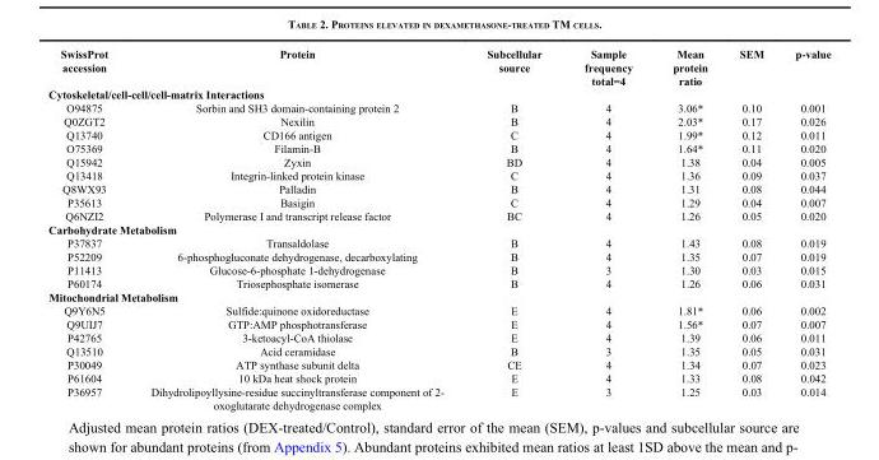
<table><thead><tr><td>SwissProt accession</td><td>Protein</td><td>Subcellular source</td><td>Sample frequency total=4</td><td>Mean protein ratio</td><td>SEM</td><td>p-value</td></tr></thead><tbody><tr><td colspan="7">Cytoskeletal/cell-cell/cell-matrix Interactions</td></tr><tr><td>O94875</td><td>Sorbin and SH3 domain-containing protein 2</td><td>B</td><td>4</td><td>3.06*</td><td>0.10</td><td>0.001</td></tr><tr><td>Q0ZGT2</td><td>Nexilin</td><td>B</td><td>4</td><td>2.03*</td><td>0.17</td><td>0.026</td></tr><tr><td>Q13740</td><td>CD166 antigen</td><td>C</td><td>4</td><td>1.99*</td><td>0.12</td><td>0.011</td></tr><tr><td>O75369</td><td>Filamin-B</td><td>B</td><td>4</td><td>1.64*</td><td>0.11</td><td>0.020</td></tr><tr><td>Q15942</td><td>Zyxin</td><td>BD</td><td>4</td><td>1.38</td><td>0.04</td><td>0.005</td></tr><tr><td>Q13418</td><td>Integrin-linked protein kinase</td><td>C</td><td>4</td><td>1.36</td><td>0.09</td><td>0.037</td></tr><tr><td>Q8WX93</td><td>Palladin</td><td>B</td><td>4</td><td>1.31</td><td>0.08</td><td>0.044</td></tr><tr><td>P35613</td><td>Basigin</td><td>C</td><td>4</td><td>1.29</td><td>0.04</td><td>0.007</td></tr><tr><td>Q6NZI2</td><td>Polymerase I and transcript release factor</td><td>BC</td><td>4</td><td>1.26</td><td>0.05</td><td>0.020</td></tr><tr><td colspan="7">Carbohydrate Metabolism</td></tr><tr><td>P37837</td><td>Transaldolase</td><td>B</td><td>4</td><td>1.43</td><td>0.08</td><td>0.019</td></tr><tr><td>P52209</td><td>6-phosphogluconate dehydrogenase, decarboxylating</td><td>B</td><td>4</td><td>1.35</td><td>0.07</td><td>0.019</td></tr><tr><td>P11413</td><td>Glucose-6-phosphate 1-dehydrogenase</td><td>B</td><td>3</td><td>1.30</td><td>0.03</td><td>0.015</td></tr><tr><td>P60174</td><td>Triosephosphate isomerase</td><td>B</td><td>4</td><td>1.26</td><td>0.06</td><td>0.031</td></tr><tr><td colspan="7">Mitochondrial Metabolism</td></tr><tr><td>Q9Y6N5</td><td>Sulfide:quinone oxidoreductase</td><td>E</td><td>4</td><td>1.81*</td><td>0.06</td><td>0.002</td></tr><tr><td>Q9UIJ7</td><td>GTP:AMP phosphotransferase</td><td>E</td><td>4</td><td>1.56*</td><td>0.07</td><td>0.007</td></tr><tr><td>P42765</td><td>3-ketoacyl-CoA thiolase</td><td>E</td><td>4</td><td>1.39</td><td>0.06</td><td>0.011</td></tr><tr><td>Q13510</td><td>Acid ceramidase</td><td>B</td><td>3</td><td>1.35</td><td>0.05</td><td>0.031</td></tr><tr><td>P30049</td><td>ATP synthase subunit delta</td><td>CE</td><td>4</td><td>1.34</td><td>0.07</td><td>0.023</td></tr><tr><td>P61604</td><td>10 kDa heat shock protein</td><td>E</td><td>4</td><td>1.33</td><td>0.08</td><td>0.042</td></tr><tr><td>P36957</td><td>Dihydrolipoyllysine-residue succinyltransferase component of 2- oxoglutarate dehydrogenase complex</td><td>E</td><td>3</td><td>1.25</td><td>0.03</td><td>0.014</td></tr></tbody></table>